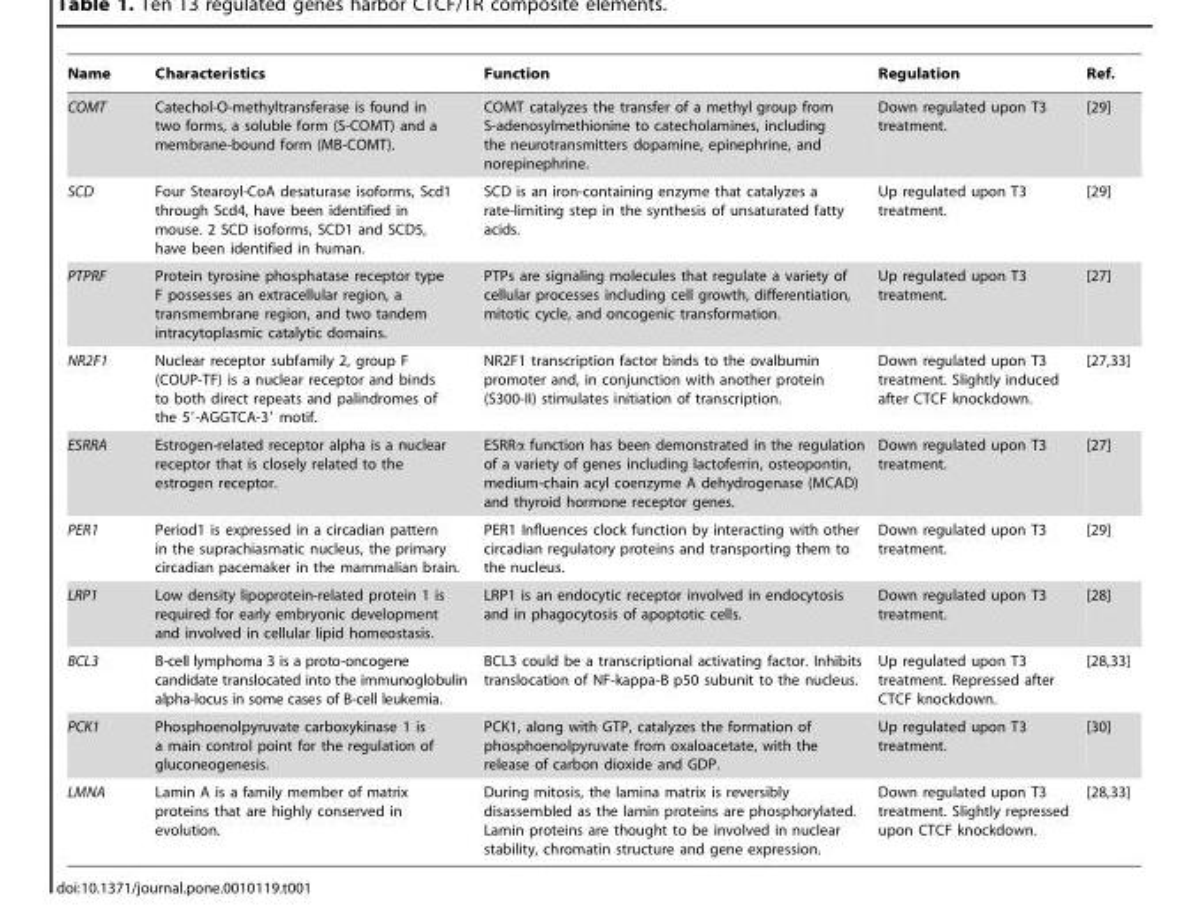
<table><thead><tr><td>Name</td><td>Characteristics</td><td>Function</td><td>Regulation</td><td>Ref.</td></tr></thead><tbody><tr><td>COMT</td><td>Catechol-O-methyltransferase is found in two forms, a soluble form (S-COMT) and a membrane-bound form (MB-COMT).</td><td>COMT catalyzes the transfer of a methyl group from S-adenosylmethionine to catecholamines, including the neurotransmitters dopamine, epinephrine, and norepinephrine.</td><td>Down regulated upon T3 treatment.</td><td>[29]</td></tr><tr><td>SCD</td><td>Four Stearoyl-CoA desaturase isoforms, Scd1 through Scd4, have been identified in mouse. 2 SCD isoforms, SCD1 and SCD5, have been identified in human.</td><td>SCD is an iron-containing enzyme that catalyzes a rate-limiting step in the synthesis of unsaturated fatty acids.</td><td>Up regulated upon T3 treatment.</td><td>[29]</td></tr><tr><td>PTPRF</td><td>Protein tyrosine phosphatase receptor type F possesses an extracellular region, a transmembrane region, and two tandem intracytoplasmic catalytic domains.</td><td>PTPs are signaling molecules that regulate a variety of cellular processes including cell growth, differentiation, mitotic cycle, and oncogenic transformation.</td><td>Up regulated upon T3 treatment.</td><td>[27]</td></tr><tr><td>NR2F1</td><td>Nuclear receptor subfamily 2, group F (COUP-TF) is a nuclear receptor and binds to both direct repeats and palindromes of the 5′-AGGTCA-3′ motif.</td><td>NR2F1 transcription factor binds to the ovalbumin promoter and, in conjunction with another protein (S300-II) stimulates initiation of transcription.</td><td>Down regulated upon T3 treatment. Slightly induced after CTCF knockdown.</td><td>[27,33]</td></tr><tr><td>ESRRA</td><td>Estrogen-related receptor alpha is a nuclear receptor that is closely related to the estrogen receptor.</td><td>ESRRα function has been demonstrated in the regulation of a variety of genes including lactoferrin, osteopontin, medium-chain acyl coenzyme A dehydrogenase (MCAD) and thyroid hormone receptor genes.</td><td>Down regulated upon T3 treatment.</td><td>[27]</td></tr><tr><td>PER1</td><td>Period1 is expressed in a circadian pattern in the suprachiasmatic nucleus, the primary circadian pacemaker in the mammalian brain.</td><td>PER1 Influences clock function by interacting with other circadian regulatory proteins and transporting them to the nucleus.</td><td>Down regulated upon T3 treatment.</td><td>[29]</td></tr><tr><td>LRP1</td><td>Low density lipoprotein-related protein 1 is required for early embryonic development and involved in cellular lipid homeostasis.</td><td>LRP1 is an endocytic receptor involved in endocytosis and in phagocytosis of apoptotic cells.</td><td>Down regulated upon T3 treatment.</td><td>[28]</td></tr><tr><td>BCL3</td><td>B-cell lymphoma 3 is a proto-oncogene candidate translocated into the immunoglobulin alpha-locus in some cases of B-cell leukemia.</td><td>BCL3 could be a transcriptional activating factor. Inhibits translocation of NF-kappa-B p50 subunit to the nucleus.</td><td>Up regulated upon T3 treatment. Repressed after CTCF knockdown.</td><td>[28,33]</td></tr><tr><td>PCK1</td><td>Phosphoenolpyruvate carboxykinase 1 is a main control point for the regulation of gluconeogenesis.</td><td>PCK1, along with GTP, catalyzes the formation of phosphoenolpyruvate from oxaloacetate, with the release of carbon dioxide and GDP.</td><td>Up regulated upon T3 treatment.</td><td>[30]</td></tr><tr><td>LMNA</td><td>Lamin A is a family member of matrix proteins that are highly conserved in evolution.</td><td>During mitosis, the lamina matrix is reversibly disassembled as the lamin proteins are phosphorylated. Lamin proteins are thought to be involved in nuclear stability, chromatin structure and gene expression.</td><td>Down regulated upon T3 treatment. Slightly repressed upon CTCF knockdown.</td><td>[28,33]</td></tr></tbody></table>